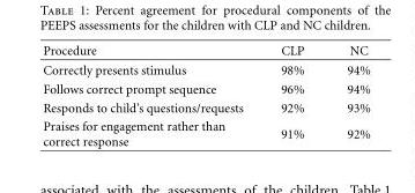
<table><thead><tr><td>Procedure</td><td>CLP</td><td>NC</td></tr></thead><tbody><tr><td>Correctly presents stimulus</td><td>98%</td><td>94%</td></tr><tr><td>Follows correct prompt sequence</td><td>96%</td><td>94%</td></tr><tr><td>Responds to child’s questions/requests</td><td>92%</td><td>93%</td></tr><tr><td>Praises for engagement rather than correct response</td><td>91%</td><td>92%</td></tr></tbody></table>